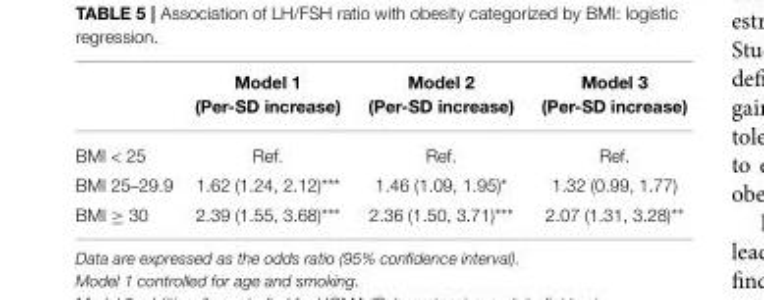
<table><thead><tr><td></td><td>Model 1 (Per-SD increase)</td><td>Model 2 (Per-SD increase)</td><td>Model 3 (Per-SD increase)</td></tr></thead><tbody><tr><td>BMI &lt; 25</td><td>Ref.</td><td>Ref.</td><td>Ref.</td></tr><tr><td>BMI 25–29.9</td><td>1.62 (1.24, 2.12)***</td><td>1.46 (1.09, 1.95)*</td><td>1.32 (0.99, 1.77)</td></tr><tr><td>BMI ≥ 30</td><td>2.39 (1.55, 3.68)***</td><td>2.36 (1.50, 3.71)***</td><td>2.07 (1.31, 3.28)**</td></tr></tbody></table>